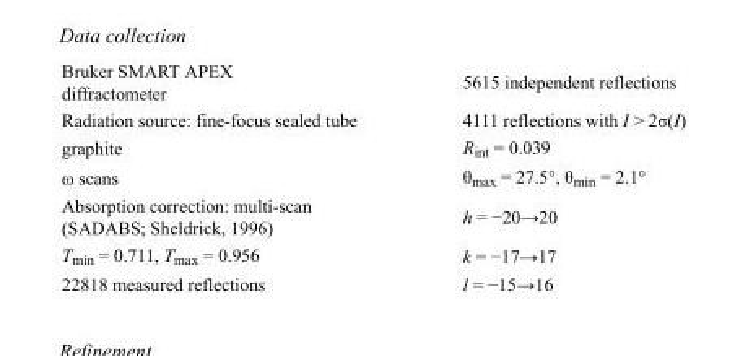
<table><tbody><tr><td>Bruker SMART APEX diffractometer</td><td>5615 independent reflections</td></tr><tr><td>Radiation source: fine-focus sealed tube</td><td>4111 reflections with I &gt; 2σ(I)</td></tr><tr><td>graphite</td><td>R<sub>int</sub> = 0.039</td></tr><tr><td>ω scans</td><td>θ<sub>max</sub> = 27.5°, θ<sub>min</sub> = 2.1°</td></tr><tr><td>Absorption correction: multi-scan (SADABS; Sheldrick, 1996)</td><td>h = −20→20</td></tr><tr><td>T<sub>min</sub> = 0.711, T<sub>max</sub> = 0.956</td><td>k = −17→17</td></tr><tr><td>22818 measured reflections</td><td>l = −15→16</td></tr></tbody></table>